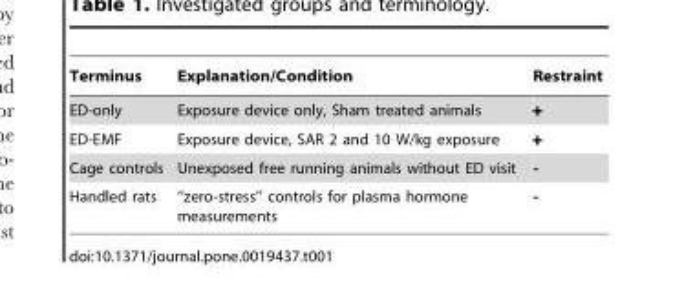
<table><thead><tr><td>Terminus</td><td>Explanation/Condition</td><td>Restraint</td></tr></thead><tbody><tr><td>ED-only</td><td>Exposure device only, Sham treated animals</td><td>+</td></tr><tr><td>ED-EMF</td><td>Exposure device, SAR 2 and 10 W/kg exposure</td><td>+</td></tr><tr><td>Cage controls</td><td>Unexposed free running animals without ED visit</td><td>-</td></tr><tr><td>Handled rats</td><td>‘‘zero-stress’’ controls for plasma hormone measurements</td><td>-</td></tr></tbody></table>